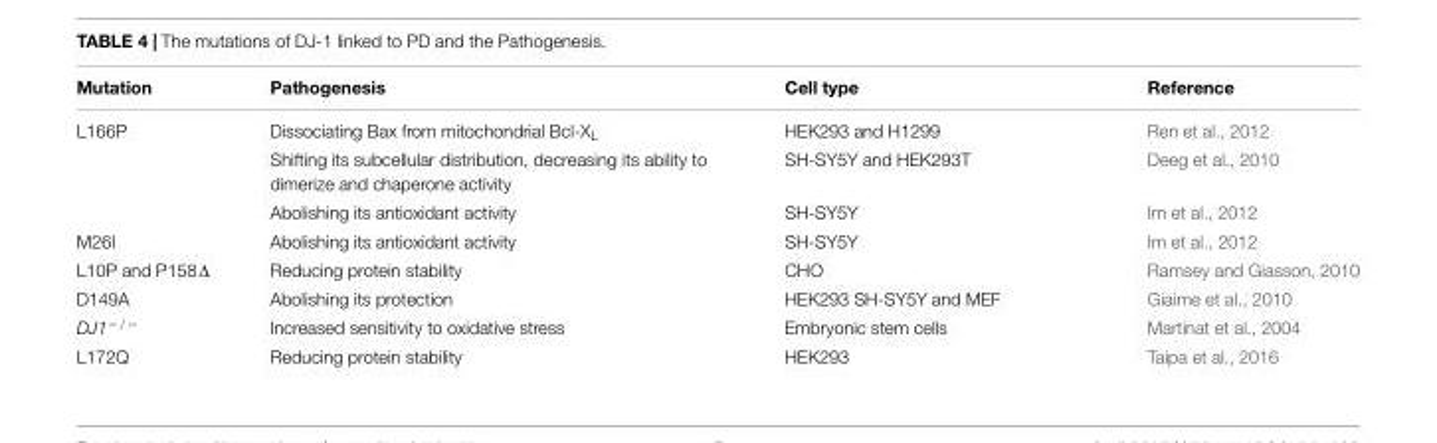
<table><thead><tr><td>Mutation</td><td>Pathogenesis</td><td>Cell type</td><td>Reference</td></tr></thead><tbody><tr><td rowspan="3">L166P</td><td>Dissociating Bax from mitochondrial Bcl-X<sub>L</sub></td><td>HEK293 and H1299</td><td>Ren et al., 2012</td></tr><tr><td>Shifting its subcellular distribution, decreasing its ability to dimerize and chaperone activity</td><td>SH-SY5Y and HEK293T</td><td>Deeg et al., 2010</td></tr><tr><td>Abolishing its antioxidant activity</td><td>SH-SY5Y</td><td>Im et al., 2012</td></tr><tr><td>M26I</td><td>Abolishing its antioxidant activity</td><td>SH-SY5Y</td><td>Im et al., 2012</td></tr><tr><td>L10P and P158Δ</td><td>Reducing protein stability</td><td>CHO</td><td>Ramsey and Giasson, 2010</td></tr><tr><td>D149A</td><td>Abolishing its protection</td><td>HEK293 SH-SY5Y and MEF</td><td>Giaime et al., 2010</td></tr><tr><td>DJ1<sup>−/−</sup></td><td>Increased sensitivity to oxidative stress</td><td>Embryonic stem cells</td><td>Martinat et al., 2004</td></tr><tr><td>L172Q</td><td>Reducing protein stability</td><td>HEK293</td><td>Taipa et al., 2016</td></tr></tbody></table>